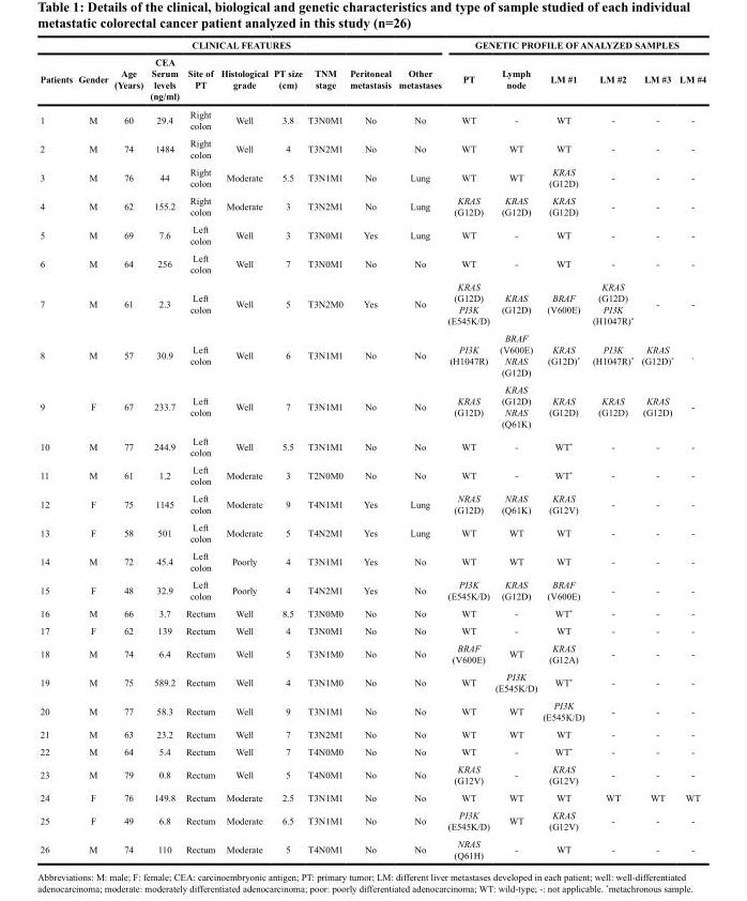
<table><thead><tr><td colspan="10">CLINICAL FEATURES</td><td colspan="6">GENETIC PROFILE OF ANALYZED SAMPLES</td></tr><tr><td>Patients</td><td>Gender</td><td>Age (Years)</td><td>CEA Serum levels (ng/ml)</td><td>Site of PT</td><td>Histological grade</td><td>PT size (cm)</td><td>TNM stage</td><td>Peritoneal metastasis</td><td>Other metastases</td><td>PT</td><td>Lymph node</td><td>LM #1</td><td>LM #2</td><td>LM #3</td><td>LM #4</td></tr></thead><tbody><tr><td>1</td><td>M</td><td>60</td><td>29.4</td><td>Right colon</td><td>Well</td><td>3.8</td><td>T3N0M1</td><td>No</td><td>No</td><td>WT</td><td>-</td><td>WT</td><td>-</td><td>-</td><td>-</td></tr><tr><td>2</td><td>M</td><td>74</td><td>1484</td><td>Right colon</td><td>Well</td><td>4</td><td>T3N2M1</td><td>No</td><td>No</td><td>WT</td><td>WT</td><td>WT</td><td>-</td><td>-</td><td>-</td></tr><tr><td>3</td><td>M</td><td>76</td><td>44</td><td>Right colon</td><td>Moderate</td><td>5.5</td><td>T3N1M1</td><td>No</td><td>Lung</td><td>WT</td><td>WT</td><td>KRAS (G12D)</td><td>-</td><td>-</td><td>-</td></tr><tr><td>4</td><td>M</td><td>62</td><td>155.2</td><td>Right colon</td><td>Moderate</td><td>3</td><td>T3N2M1</td><td>No</td><td>Lung</td><td>KRAS (G12D)</td><td>KRAS (G12D)</td><td>KRAS (G12D)</td><td>-</td><td>-</td><td>-</td></tr><tr><td>5</td><td>M</td><td>69</td><td>7.6</td><td>Left colon</td><td>Well</td><td>3</td><td>T3N0M1</td><td>Yes</td><td>Lung</td><td>WT</td><td>-</td><td>WT</td><td>-</td><td>-</td><td>-</td></tr><tr><td>6</td><td>M</td><td>64</td><td>256</td><td>Left colon</td><td>Well</td><td>7</td><td>T3N0M1</td><td>No</td><td>No</td><td>WT</td><td>-</td><td>WT</td><td>-</td><td>-</td><td>-</td></tr><tr><td>7</td><td>M</td><td>61</td><td>2.3</td><td>Left colon</td><td>Well</td><td>5</td><td>T3N2M0</td><td>Yes</td><td>No</td><td>KRAS (G12D) PI3K (E545K/D)</td><td>KRAS (G12D)</td><td>BRAF (V600E)</td><td>KRAS (G12D) PI3K (H1047R)*</td><td>-</td><td>-</td></tr><tr><td>8</td><td>M</td><td>57</td><td>30.9</td><td>Left colon</td><td>Well</td><td>6</td><td>T3N1M1</td><td>No</td><td>No</td><td>PI3K (H1047R)</td><td>BRAF (V600E) NRAS (G12D)</td><td>KRAS (G12D)*</td><td>PI3K (H1047R)*</td><td>KRAS (G12D)*</td><td>.</td></tr><tr><td>9</td><td>F</td><td>67</td><td>233.7</td><td>Left colon</td><td>Well</td><td>7</td><td>T3N1M1</td><td>No</td><td>No</td><td>KRAS (G12D)</td><td>KRAS (G12D) NRAS (Q61K)</td><td>KRAS (G12D)</td><td>KRAS (G12D)</td><td>KRAS (G12D)</td><td>-</td></tr><tr><td>10</td><td>M</td><td>77</td><td>244.9</td><td>Left colon</td><td>Well</td><td>5.5</td><td>T3N1M1</td><td>No</td><td>No</td><td>WT</td><td>-</td><td>WT*</td><td>-</td><td>-</td><td>-</td></tr><tr><td>11</td><td>M</td><td>61</td><td>1.2</td><td>Left colon</td><td>Moderate</td><td>3</td><td>T2N0M0</td><td>No</td><td>No</td><td>WT</td><td>-</td><td>WT*</td><td>-</td><td>-</td><td>-</td></tr><tr><td>12</td><td>F</td><td>75</td><td>1145</td><td>Left colon</td><td>Moderate</td><td>9</td><td>T4N1M1</td><td>Yes</td><td>Lung</td><td>NRAS (G12D)</td><td>NRAS (Q61K)</td><td>KRAS (G12V)</td><td>-</td><td>-</td><td>-</td></tr><tr><td>13</td><td>F</td><td>58</td><td>501</td><td>Left colon</td><td>Moderate</td><td>5</td><td>T4N2M1</td><td>Yes</td><td>Lung</td><td>WT</td><td>WT</td><td>WT</td><td>-</td><td>-</td><td>-</td></tr><tr><td>14</td><td>M</td><td>72</td><td>45.4</td><td>Left colon</td><td>Poorly</td><td>4</td><td>T3N1M1</td><td>Yes</td><td>No</td><td>WT</td><td>WT</td><td>WT</td><td>-</td><td>-</td><td>-</td></tr><tr><td>15</td><td>F</td><td>48</td><td>32.9</td><td>Left colon</td><td>Poorly</td><td>4</td><td>T4N2M1</td><td>Yes</td><td>No</td><td>PI3K (E545K/D)</td><td>KRAS (G12D)</td><td>BRAF (V600E)</td><td>-</td><td>-</td><td>-</td></tr><tr><td>16</td><td>M</td><td>66</td><td>3.7</td><td>Rectum</td><td>Well</td><td>8.5</td><td>T3N0M0</td><td>No</td><td>No</td><td>WT</td><td>-</td><td>WT*</td><td>-</td><td>-</td><td>-</td></tr><tr><td>17</td><td>F</td><td>62</td><td>139</td><td>Rectum</td><td>Well</td><td>4</td><td>T3N0M1</td><td>No</td><td>No</td><td>WT</td><td>-</td><td>WT</td><td>-</td><td>-</td><td>-</td></tr><tr><td>18</td><td>M</td><td>74</td><td>6.4</td><td>Rectum</td><td>Well</td><td>5</td><td>T3N1M0</td><td>No</td><td>No</td><td>BRAF (V600E)</td><td>WT</td><td>KRAS (G12A)</td><td>-</td><td>-</td><td>-</td></tr><tr><td>19</td><td>M</td><td>75</td><td>589.2</td><td>Rectum</td><td>Well</td><td>4</td><td>T3N1M0</td><td>No</td><td>No</td><td>WT</td><td>PI3K (E545K/D)</td><td>WT*</td><td>-</td><td>-</td><td>-</td></tr><tr><td>20</td><td>M</td><td>77</td><td>58.3</td><td>Rectum</td><td>Well</td><td>9</td><td>T3N1M1</td><td>No</td><td>No</td><td>WT</td><td>WT</td><td>PI3K (E545K/D)</td><td>-</td><td>-</td><td>-</td></tr><tr><td>21</td><td>M</td><td>63</td><td>23.2</td><td>Rectum</td><td>Well</td><td>7</td><td>T3N2M1</td><td>No</td><td>No</td><td>WT</td><td>WT</td><td>WT</td><td>-</td><td>-</td><td>-</td></tr><tr><td>22</td><td>M</td><td>64</td><td>5.4</td><td>Rectum</td><td>Well</td><td>7</td><td>T4N0M0</td><td>No</td><td>No</td><td>WT</td><td>-</td><td>WT*</td><td>-</td><td>-</td><td>-</td></tr><tr><td>23</td><td>M</td><td>79</td><td>0.8</td><td>Rectum</td><td>Well</td><td>5</td><td>T4N0M1</td><td>No</td><td>No</td><td>KRAS (G12V)</td><td>-</td><td>KRAS (G12V)</td><td>-</td><td>-</td><td>-</td></tr><tr><td>24</td><td>F</td><td>76</td><td>149.8</td><td>Rectum</td><td>Moderate</td><td>2.5</td><td>T3N1M1</td><td>No</td><td>No</td><td>WT</td><td>WT</td><td>WT</td><td>WT</td><td>WT</td><td>WT</td></tr><tr><td>25</td><td>F</td><td>49</td><td>6.8</td><td>Rectum</td><td>Moderate</td><td>6.5</td><td>T3N1M1</td><td>No</td><td>No</td><td>PI3K (E545K/D)</td><td>WT</td><td>KRAS (G12V)</td><td>-</td><td>-</td><td>-</td></tr><tr><td>26</td><td>M</td><td>74</td><td>110</td><td>Rectum</td><td>Moderate</td><td>5</td><td>T4N0M1</td><td>No</td><td>No</td><td>NRAS (Q61H)</td><td>-</td><td>WT</td><td>-</td><td>-</td><td>-</td></tr></tbody></table>